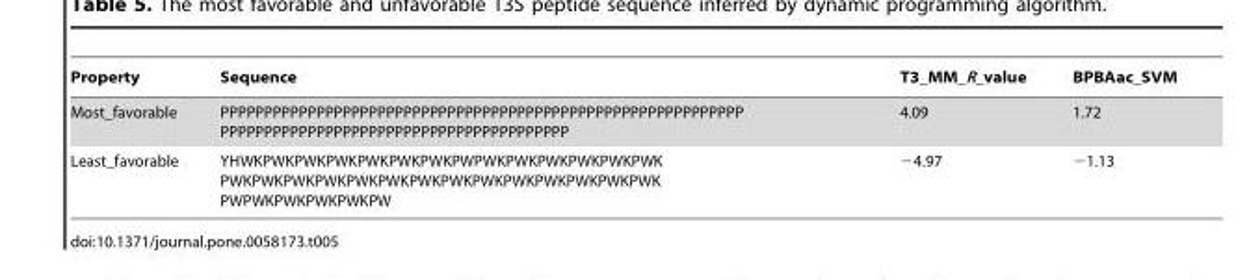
<table><thead><tr><td>Property</td><td>Sequence</td><td>T3_MM_R_value</td><td>BPBAac_SVM</td></tr></thead><tbody><tr><td>Most_favorable</td><td>PPPPPPPPPPPPPPPPPPPPPPPPPPPPPPPPPPPPPPPPPPPPPPPPPPPPPPPPPPPP PPPPPPPPPPPPPPPPPPPPPPPPPPPPPPPPPPPPPPPP</td><td>4.09</td><td>1.72</td></tr><tr><td>Least_favorable</td><td>YHWKPWKPWKPWKPWKPWKPWKPWPWKPWKPWKPWKPWKPWK PWKPWKPWKPWKPWKPWKPWKPWKPWKPWKPWKPWKPWKPWK PWPWKPWKPWKPWKPW</td><td>−4.97</td><td>−1.13</td></tr></tbody></table>